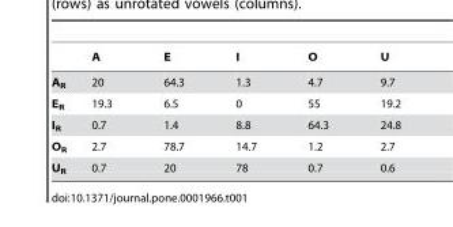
<table><thead><tr><td></td><td>A</td><td>E</td><td>I</td><td>O</td><td>U</td></tr></thead><tbody><tr><td>A<sub>R</sub></td><td>20</td><td>64.3</td><td>1.3</td><td>4.7</td><td>9.7</td></tr><tr><td>E<sub>R</sub></td><td>19.3</td><td>6.5</td><td>0</td><td>55</td><td>19.2</td></tr><tr><td>I<sub>R</sub></td><td>0.7</td><td>1.4</td><td>8.8</td><td>64.3</td><td>24.8</td></tr><tr><td>O<sub>R</sub></td><td>2.7</td><td>78.7</td><td>14.7</td><td>1.2</td><td>2.7</td></tr><tr><td>U<sub>R</sub></td><td>0.7</td><td>20</td><td>78</td><td>0.7</td><td>0.6</td></tr></tbody></table>